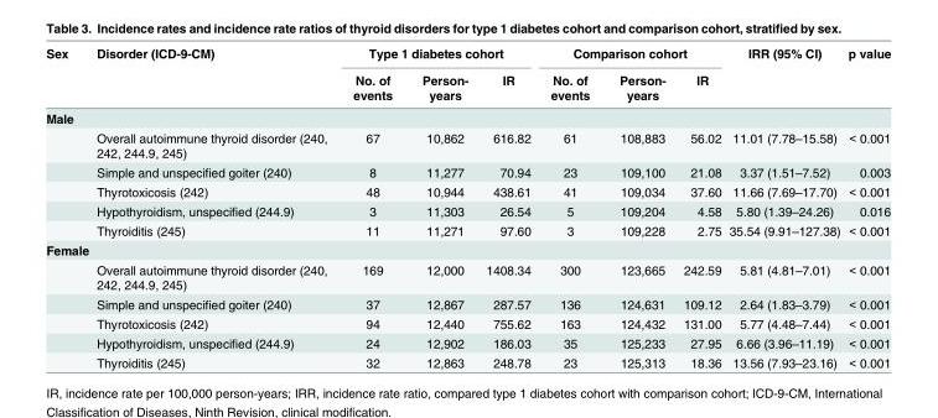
<table><thead><tr><td rowspan="2">Sex</td><td rowspan="2">Disorder (ICD-9-CM)</td><td colspan="3">Type 1 diabetes cohort</td><td colspan="3">Comparison cohort</td><td rowspan="2">IRR (95% CI)</td><td rowspan="2">p value</td></tr><tr><td>No. of events</td><td>Person- years</td><td>IR</td><td>No. of events</td><td>Person- years</td><td>IR</td></tr></thead><tbody><tr><td colspan="10">Male</td></tr><tr><td></td><td>Overall autoimmune thyroid disorder (240, 242, 244.9, 245)</td><td>67</td><td>10,862</td><td>616.82</td><td>61</td><td>108,883</td><td>56.02</td><td>11.01 (7.78–15.58)</td><td>&lt; 0.001</td></tr><tr><td></td><td>Simple and unspecified goiter (240)</td><td>8</td><td>11,277</td><td>70.94</td><td>23</td><td>109,100</td><td>21.08</td><td>3.37 (1.51–7.52)</td><td>0.003</td></tr><tr><td></td><td>Thyrotoxicosis (242)</td><td>48</td><td>10,944</td><td>438.61</td><td>41</td><td>109,034</td><td>37.60</td><td>11.66 (7.69–17.70)</td><td>&lt; 0.001</td></tr><tr><td></td><td>Hypothyroidism, unspecified (244.9)</td><td>3</td><td>11,303</td><td>26.54</td><td>5</td><td>109,204</td><td>4.58</td><td>5.80 (1.39–24.26)</td><td>0.016</td></tr><tr><td></td><td>Thyroiditis (245)</td><td>11</td><td>11,271</td><td>97.60</td><td>3</td><td>109,228</td><td>2.75</td><td>35.54 (9.91–127.38)</td><td>&lt; 0.001</td></tr><tr><td colspan="10">Female</td></tr><tr><td></td><td>Overall autoimmune thyroid disorder (240, 242, 244.9, 245)</td><td>169</td><td>12,000</td><td>1408.34</td><td>300</td><td>123,665</td><td>242.59</td><td>5.81 (4.81–7.01)</td><td>&lt; 0.001</td></tr><tr><td></td><td>Simple and unspecified goiter (240)</td><td>37</td><td>12,867</td><td>287.57</td><td>136</td><td>124,631</td><td>109.12</td><td>2.64 (1.83–3.79)</td><td>&lt; 0.001</td></tr><tr><td></td><td>Thyrotoxicosis (242)</td><td>94</td><td>12,440</td><td>755.62</td><td>163</td><td>124,432</td><td>131.00</td><td>5.77 (4.48–7.44)</td><td>&lt; 0.001</td></tr><tr><td></td><td>Hypothyroidism, unspecified (244.9)</td><td>24</td><td>12,902</td><td>186.03</td><td>35</td><td>125,233</td><td>27.95</td><td>6.66 (3.96–11.19)</td><td>&lt; 0.001</td></tr><tr><td></td><td>Thyroiditis (245)</td><td>32</td><td>12,863</td><td>248.78</td><td>23</td><td>125,313</td><td>18.36</td><td>13.56 (7.93–23.16)</td><td>&lt; 0.001</td></tr></tbody></table>